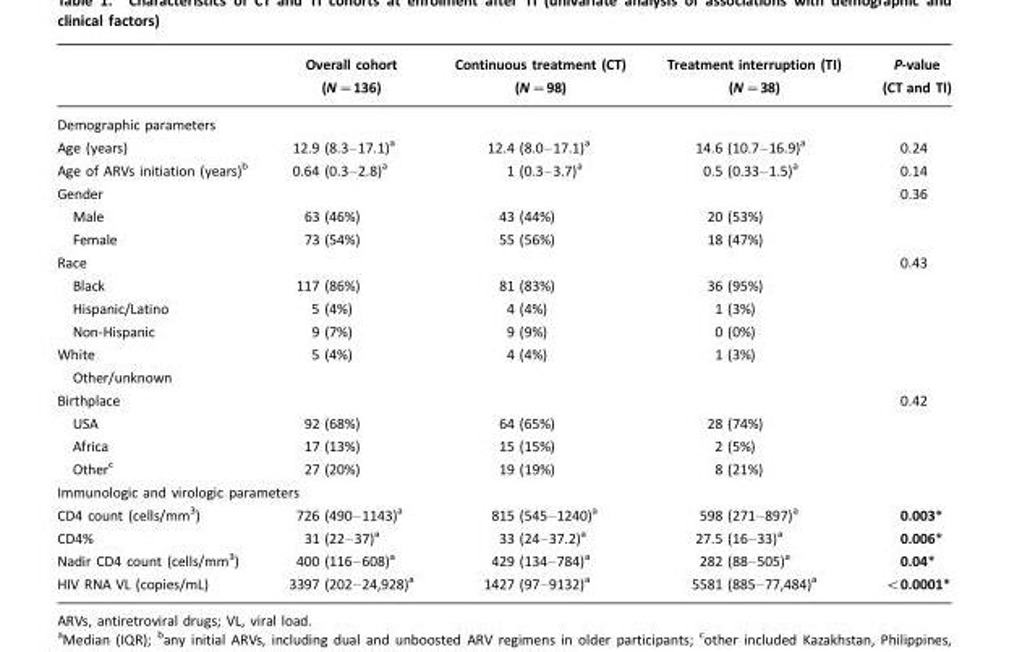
<table><thead><tr><td></td><td>Overall cohort (N=136)</td><td>Continuous treatment (CT) (N=98)</td><td>Treatment interruption (TI) (N=38)</td><td>P-value (CT and TI)</td></tr></thead><tbody><tr><td colspan="5">Demographic parameters</td></tr><tr><td>Age (years)</td><td>12.9 (8.3–17.1)<sup>a</sup></td><td>12.4 (8.0–17.1)<sup>a</sup></td><td>14.6 (10.7–16.9)<sup>a</sup></td><td>0.24</td></tr><tr><td>Age of ARVs initiation (years)<sup>b</sup></td><td>0.64 (0.3–2.8)<sup>a</sup></td><td>1 (0.3–3.7)<sup>a</sup></td><td>0.5 (0.33–1.5)<sup>a</sup></td><td>0.14</td></tr><tr><td>Gender</td><td></td><td></td><td></td><td>0.36</td></tr><tr><td>Male</td><td>63 (46%)</td><td>43 (44%)</td><td>20 (53%)</td><td></td></tr><tr><td>Female</td><td>73 (54%)</td><td>55 (56%)</td><td>18 (47%)</td><td></td></tr><tr><td>Race</td><td></td><td></td><td></td><td>0.43</td></tr><tr><td>Black</td><td>117 (86%)</td><td>81 (83%)</td><td>36 (95%)</td><td></td></tr><tr><td>Hispanic/Latino</td><td>5 (4%)</td><td>4 (4%)</td><td>1 (3%)</td><td></td></tr><tr><td>Non-Hispanic</td><td>9 (7%)</td><td>9 (9%)</td><td>0 (0%)</td><td></td></tr><tr><td>White</td><td>5 (4%)</td><td>4 (4%)</td><td>1 (3%)</td><td></td></tr><tr><td colspan="5">Other/unknown</td></tr><tr><td>Birthplace</td><td></td><td></td><td></td><td>0.42</td></tr><tr><td>USA</td><td>92 (68%)</td><td>64 (65%)</td><td>28 (74%)</td><td></td></tr><tr><td>Africa</td><td>17 (13%)</td><td>15 (15%)</td><td>2 (5%)</td><td></td></tr><tr><td>Other<sup>c</sup></td><td>27 (20%)</td><td>19 (19%)</td><td>8 (21%)</td><td></td></tr><tr><td colspan="5">Immunologic and virologic parameters</td></tr><tr><td>CD4 count (cells/mm<sup>3</sup>)</td><td>726 (490–1143)<sup>a</sup></td><td>815 (545–1240)<sup>a</sup></td><td>598 (271–897)<sup>a</sup></td><td>0.003*</td></tr><tr><td>CD4%</td><td>31 (22–37)<sup>a</sup></td><td>33 (24–37.2)<sup>a</sup></td><td>27.5 (16–33)<sup>a</sup></td><td>0.006*</td></tr><tr><td>Nadir CD4 count (cells/mm<sup>3</sup>)</td><td>400 (116–608)<sup>a</sup></td><td>429 (134–784)<sup>a</sup></td><td>282 (88–505)<sup>a</sup></td><td>0.04*</td></tr><tr><td>HIV RNA VL (copies/mL)</td><td>3397 (202–24,928)<sup>a</sup></td><td>1427 (97–9132)<sup>a</sup></td><td>5581 (885–77,484)<sup>a</sup></td><td>&lt;0.0001*</td></tr></tbody></table>